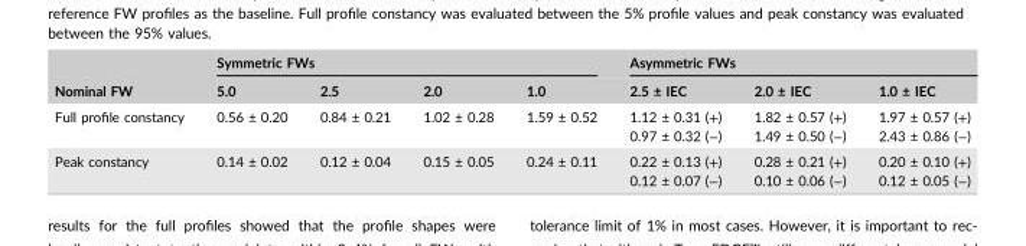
<table><thead><tr><td rowspan="2">Nominal FW</td><td colspan="4">Symmetric FWs</td><td colspan="3">Asymmetric FWs</td></tr><tr><td>5.0</td><td>2.5</td><td>2.0</td><td>1.0</td><td>2.5 ± IEC</td><td>2.0 ± IEC</td><td>1.0 ± IEC</td></tr></thead><tbody><tr><td>Full profile constancy</td><td>0.56 ± 0.20</td><td>0.84 ± 0.21</td><td>1.02 ± 0.28</td><td>1.59 ± 0.52</td><td>1.12 ± 0.31 (+) 0.97 ± 0.32 (−)</td><td>1.82 ± 0.57 (+) 1.49 ± 0.50 (−)</td><td>1.97 ± 0.57 (+) 2.43 ± 0.86 (−)</td></tr><tr><td>Peak constancy</td><td>0.14 ± 0.02</td><td>0.12 ± 0.04</td><td>0.15 ± 0.05</td><td>0.24 ± 0.11</td><td>0.22 ± 0.13 (+) 0.12 ± 0.07 (−)</td><td>0.28 ± 0.21 (+) 0.10 ± 0.06 (−)</td><td>0.20 ± 0.10 (+) 0.12 ± 0.05 (−)</td></tr></tbody></table>